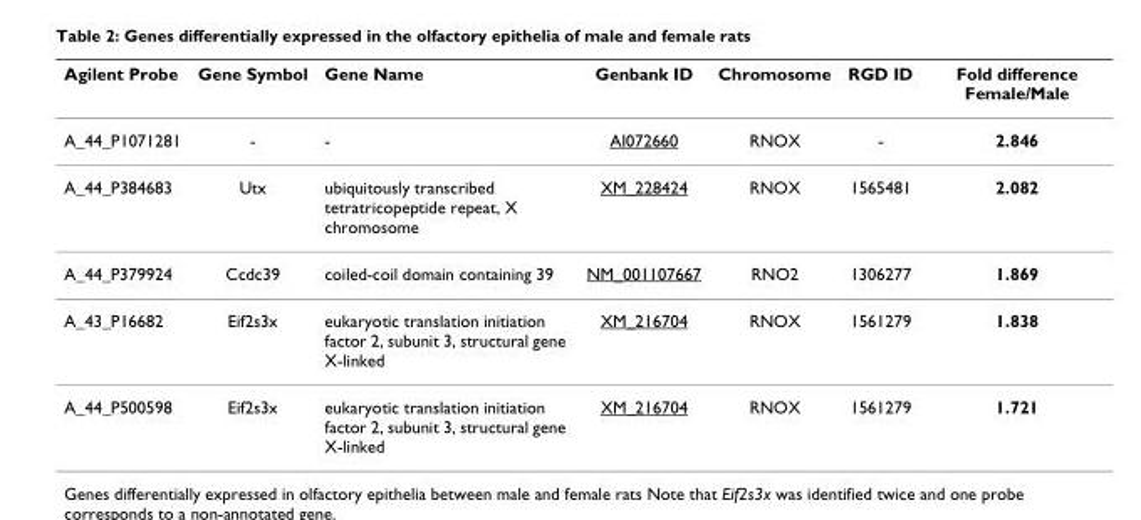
<table><thead><tr><td>Agilent Probe</td><td>Gene Symbol</td><td>Gene Name</td><td>Genbank ID</td><td>Chromosome</td><td>RGD ID</td><td>Fold difference Female/Male</td></tr></thead><tbody><tr><td>A_44_P1071281</td><td>-</td><td>-</td><td>AI072660</td><td>RNOX</td><td>-</td><td>2.846</td></tr><tr><td>A_44_P384683</td><td>Utx</td><td>ubiquitously transcribed tetratricopeptide repeat, X chromosome</td><td>XM_228424</td><td>RNOX</td><td>1565481</td><td>2.082</td></tr><tr><td>A_44_P379924</td><td>Ccdc39</td><td>coiled-coil domain containing 39</td><td>NM_001107667</td><td>RNO2</td><td>1306277</td><td>1.869</td></tr><tr><td>A_43_P16682</td><td>Eif2s3x</td><td>eukaryotic translation initiation factor 2, subunit 3, structural gene X-linked</td><td>XM_216704</td><td>RNOX</td><td>1561279</td><td>1.838</td></tr><tr><td>A_44_P500598</td><td>Eif2s3x</td><td>eukaryotic translation initiation factor 2, subunit 3, structural gene X-linked</td><td>XM_216704</td><td>RNOX</td><td>1561279</td><td>1.721</td></tr></tbody></table>